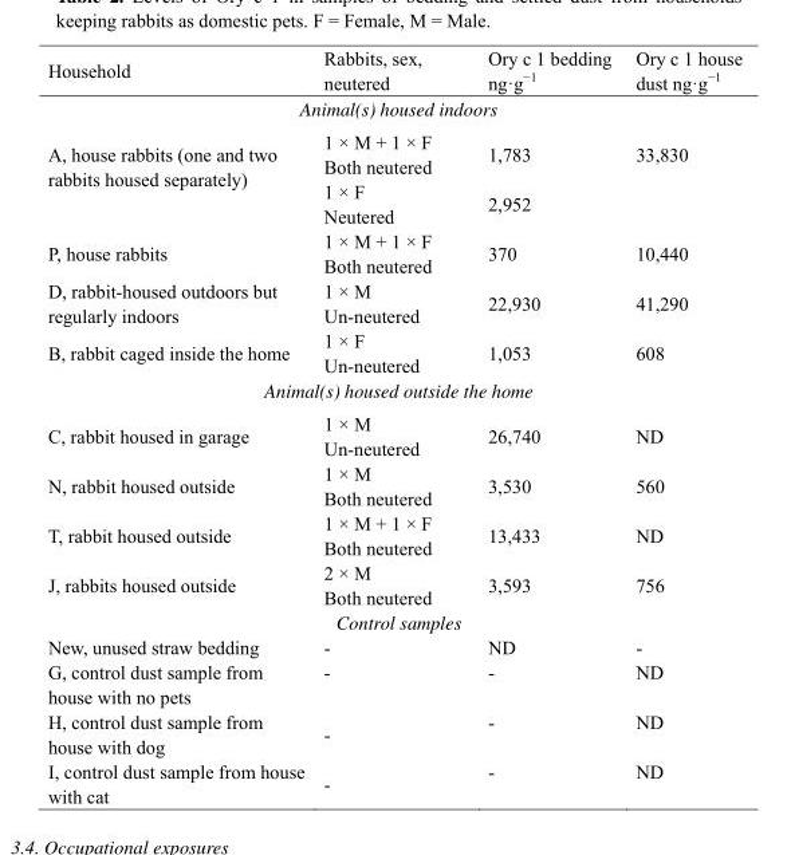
<table><thead><tr><td>Household</td><td>Rabbits, sex, neutered</td><td>Ory c 1 bedding ng·g<sup>−1</sup></td><td>Ory c 1 house dust ng·g<sup>−1</sup></td></tr></thead><tbody><tr><td colspan="4">Animal(s) housed indoors</td></tr><tr><td rowspan="2">A, house rabbits (one and two rabbits housed separately)</td><td>1 × M + 1 × F Both neutered</td><td>1,783</td><td rowspan="2">33,830</td></tr><tr><td>1 × F Neutered</td><td>2,952</td></tr><tr><td>P, house rabbits</td><td>1 × M + 1 × F Both neutered</td><td>370</td><td>10,440</td></tr><tr><td>D, rabbit-housed outdoors but regularly indoors</td><td>1 × M Un-neutered</td><td>22,930</td><td>41,290</td></tr><tr><td>B, rabbit caged inside the home</td><td>1 × F Un-neutered</td><td>1,053</td><td>608</td></tr><tr><td colspan="4">Animal(s) housed outside the home</td></tr><tr><td>C, rabbit housed in garage</td><td>1 × M Un-neutered</td><td>26,740</td><td>ND</td></tr><tr><td>N, rabbit housed outside</td><td>1 × M Both neutered</td><td>3,530</td><td>560</td></tr><tr><td>T, rabbit housed outside</td><td>1 × M + 1 × F Both neutered</td><td>13,433</td><td>ND</td></tr><tr><td>J, rabbits housed outside</td><td>2 × M Both neutered</td><td>3,593</td><td>756</td></tr><tr><td colspan="4">Control samples</td></tr><tr><td>New, unused straw bedding</td><td>-</td><td>ND</td><td>-</td></tr><tr><td>G, control dust sample from house with no pets</td><td>-</td><td>-</td><td>ND</td></tr><tr><td>H, control dust sample from house with dog</td><td>-</td><td>-</td><td>ND</td></tr><tr><td>I, control dust sample from house with cat</td><td>-</td><td>-</td><td>ND</td></tr></tbody></table>